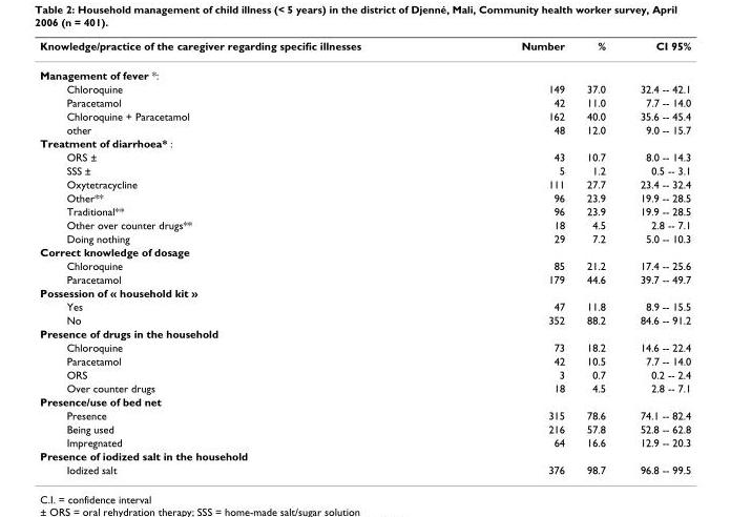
<table><thead><tr><td>Knowledge/practice of the caregiver regarding specific illnesses</td><td>Number</td><td>%</td><td>CI 95%</td></tr></thead><tbody><tr><td colspan="4">Management of fever *:</td></tr><tr><td>Chloroquine</td><td>149</td><td>37.0</td><td>32.4 -- 42.1</td></tr><tr><td>Paracetamol</td><td>42</td><td>11.0</td><td>7.7 -- 14.0</td></tr><tr><td>Chloroquine + Paracetamol</td><td>162</td><td>40.0</td><td>35.6 -- 45.4</td></tr><tr><td>other</td><td>48</td><td>12.0</td><td>9.0 -- 15.7</td></tr><tr><td colspan="4">Treatment of diarrhoea* :</td></tr><tr><td>ORS ±</td><td>43</td><td>10.7</td><td>8.0 -- 14.3</td></tr><tr><td>SSS ±</td><td>5</td><td>1.2</td><td>0.5 -- 3.1</td></tr><tr><td>Oxytetracycline</td><td>111</td><td>27.7</td><td>23.4 -- 32.4</td></tr><tr><td>Other**</td><td>96</td><td>23.9</td><td>19.9 -- 28.5</td></tr><tr><td>Traditional**</td><td>96</td><td>23.9</td><td>19.9 -- 28.5</td></tr><tr><td>Other over counter drugs**</td><td>18</td><td>4.5</td><td>2.8 -- 7.1</td></tr><tr><td>Doing nothing</td><td>29</td><td>7.2</td><td>5.0 -- 10.3</td></tr><tr><td colspan="4">Correct knowledge of dosage</td></tr><tr><td>Chloroquine</td><td>85</td><td>21.2</td><td>17.4 -- 25.6</td></tr><tr><td>Paracetamol</td><td>179</td><td>44.6</td><td>39.7 -- 49.7</td></tr><tr><td colspan="4">Possession of « household kit »</td></tr><tr><td>Yes</td><td>47</td><td>11.8</td><td>8.9 -- 15.5</td></tr><tr><td>No</td><td>352</td><td>88.2</td><td>84.6 -- 91.2</td></tr><tr><td colspan="4">Presence of drugs in the household</td></tr><tr><td>Chloroquine</td><td>73</td><td>18.2</td><td>14.6 -- 22.4</td></tr><tr><td>Paracetamol</td><td>42</td><td>10.5</td><td>7.7 -- 14.0</td></tr><tr><td>ORS</td><td>3</td><td>0.7</td><td>0.2 -- 2.4</td></tr><tr><td>Over counter drugs</td><td>18</td><td>4.5</td><td>2.8 -- 7.1</td></tr><tr><td colspan="4">Presence/use of bed net</td></tr><tr><td>Presence</td><td>315</td><td>78.6</td><td>74.1 -- 82.4</td></tr><tr><td>Being used</td><td>216</td><td>57.8</td><td>52.8 -- 62.8</td></tr><tr><td>Impregnated</td><td>64</td><td>16.6</td><td>12.9 -- 20.3</td></tr><tr><td colspan="4">Presence of iodized salt in the household</td></tr><tr><td>Iodized salt</td><td>376</td><td>98.7</td><td>96.8 -- 99.5</td></tr></tbody></table>